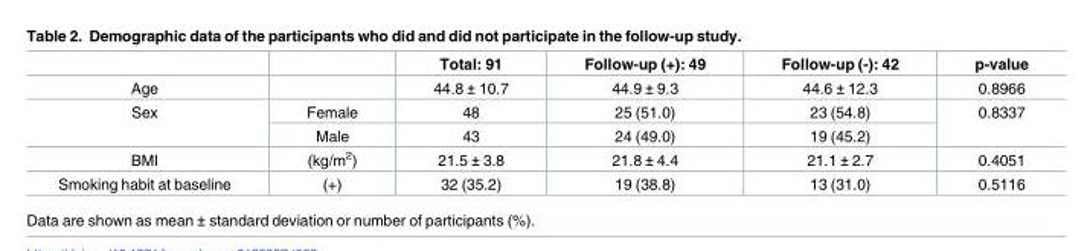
<table><thead><tr><td></td><td></td><td>Total: 91</td><td>Follow-up (+): 49</td><td>Follow-up (-): 42</td><td>p-value</td></tr></thead><tbody><tr><td>Age</td><td></td><td>44.8 ± 10.7</td><td>44.9 ± 9.3</td><td>44.6 ± 12.3</td><td>0.8966</td></tr><tr><td rowspan="2">Sex</td><td>Female</td><td>48</td><td>25 (51.0)</td><td>23 (54.8)</td><td rowspan="2">0.8337</td></tr><tr><td>Male</td><td>43</td><td>24 (49.0)</td><td>19 (45.2)</td></tr><tr><td>BMI</td><td>(kg/m<sup>2</sup>)</td><td>21.5 ± 3.8</td><td>21.8 ± 4.4</td><td>21.1 ± 2.7</td><td>0.4051</td></tr><tr><td>Smoking habit at baseline</td><td>(+)</td><td>32 (35.2)</td><td>19 (38.8)</td><td>13 (31.0)</td><td>0.5116</td></tr></tbody></table>